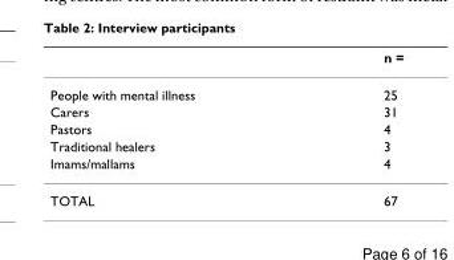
<table><thead><tr><td></td><td>n =</td></tr></thead><tbody><tr><td>People with mental illness</td><td>25</td></tr><tr><td>Carers</td><td>31</td></tr><tr><td>Pastors</td><td>4</td></tr><tr><td>Traditional healers</td><td>3</td></tr><tr><td>Imams/mallams</td><td>4</td></tr><tr><td>TOTAL</td><td>67</td></tr></tbody></table>